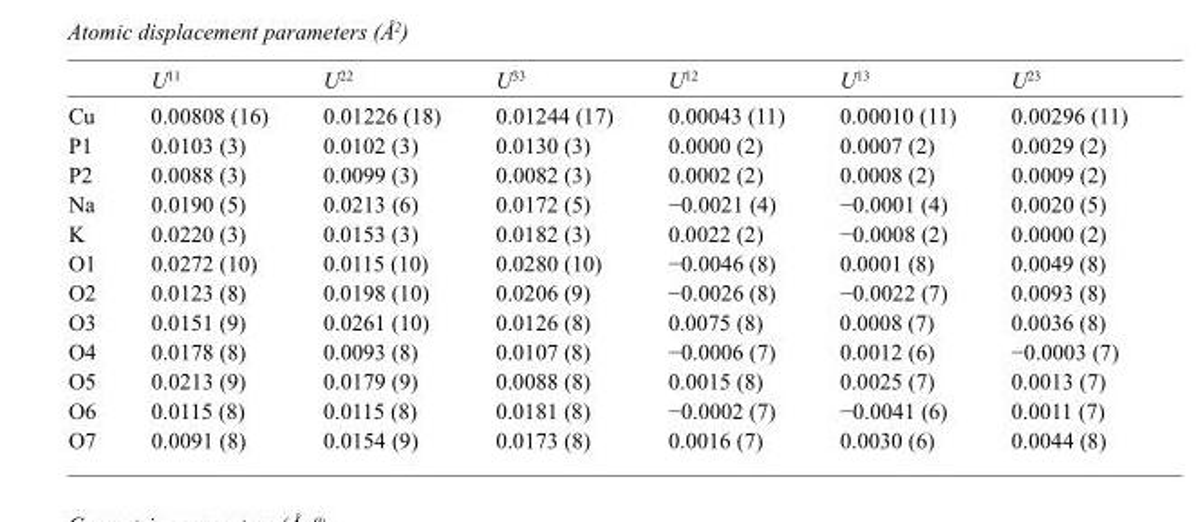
<table><thead><tr><td></td><td>U<sup>11</sup></td><td>U<sup>22</sup></td><td>U<sup>33</sup></td><td>U<sup>12</sup></td><td>U<sup>13</sup></td><td>U<sup>23</sup></td></tr></thead><tbody><tr><td>Cu</td><td>0.00808 (16)</td><td>0.01226 (18)</td><td>0.01244 (17)</td><td>0.00043 (11)</td><td>0.00010 (11)</td><td>0.00296 (11)</td></tr><tr><td>P1</td><td>0.0103 (3)</td><td>0.0102 (3)</td><td>0.0130 (3)</td><td>0.0000 (2)</td><td>0.0007 (2)</td><td>0.0029 (2)</td></tr><tr><td>P2</td><td>0.0088 (3)</td><td>0.0099 (3)</td><td>0.0082 (3)</td><td>0.0002 (2)</td><td>0.0008 (2)</td><td>0.0009 (2)</td></tr><tr><td>Na</td><td>0.0190 (5)</td><td>0.0213 (6)</td><td>0.0172 (5)</td><td>−0.0021 (4)</td><td>−0.0001 (4)</td><td>0.0020 (5)</td></tr><tr><td>K</td><td>0.0220 (3)</td><td>0.0153 (3)</td><td>0.0182 (3)</td><td>0.0022 (2)</td><td>−0.0008 (2)</td><td>0.0000 (2)</td></tr><tr><td>O1</td><td>0.0272 (10)</td><td>0.0115 (10)</td><td>0.0280 (10)</td><td>−0.0046 (8)</td><td>0.0001 (8)</td><td>0.0049 (8)</td></tr><tr><td>O2</td><td>0.0123 (8)</td><td>0.0198 (10)</td><td>0.0206 (9)</td><td>−0.0026 (8)</td><td>−0.0022 (7)</td><td>0.0093 (8)</td></tr><tr><td>O3</td><td>0.0151 (9)</td><td>0.0261 (10)</td><td>0.0126 (8)</td><td>0.0075 (8)</td><td>0.0008 (7)</td><td>0.0036 (8)</td></tr><tr><td>O4</td><td>0.0178 (8)</td><td>0.0093 (8)</td><td>0.0107 (8)</td><td>−0.0006 (7)</td><td>0.0012 (6)</td><td>−0.0003 (7)</td></tr><tr><td>O5</td><td>0.0213 (9)</td><td>0.0179 (9)</td><td>0.0088 (8)</td><td>0.0015 (8)</td><td>0.0025 (7)</td><td>0.0013 (7)</td></tr><tr><td>O6</td><td>0.0115 (8)</td><td>0.0115 (8)</td><td>0.0181 (8)</td><td>−0.0002 (7)</td><td>−0.0041 (6)</td><td>0.0011 (7)</td></tr><tr><td>O7</td><td>0.0091 (8)</td><td>0.0154 (9)</td><td>0.0173 (8)</td><td>0.0016 (7)</td><td>0.0030 (6)</td><td>0.0044 (8)</td></tr></tbody></table>